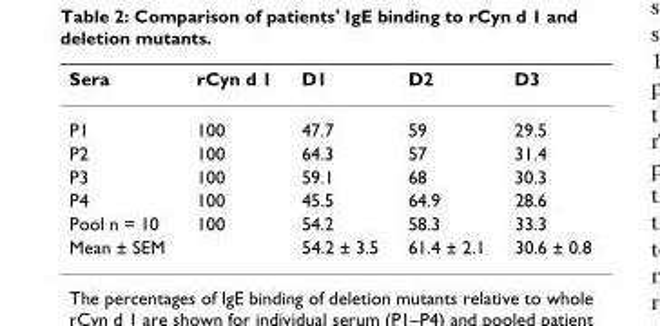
<table><thead><tr><td>Sera</td><td>rCyn d 1</td><td>D1</td><td>D2</td><td>D3</td></tr></thead><tbody><tr><td>P1</td><td>100</td><td>47.7</td><td>59</td><td>29.5</td></tr><tr><td>P2</td><td>100</td><td>64.3</td><td>57</td><td>31.4</td></tr><tr><td>P3</td><td>100</td><td>59.1</td><td>68</td><td>30.3</td></tr><tr><td>P4</td><td>100</td><td>45.5</td><td>64.9</td><td>28.6</td></tr><tr><td>Pool n = 10</td><td>100</td><td>54.2</td><td>58.3</td><td>33.3</td></tr><tr><td>Mean ± SEM</td><td></td><td>54.2 ± 3.5</td><td>61.4 ± 2.1</td><td>30.6 ± 0.8</td></tr></tbody></table>